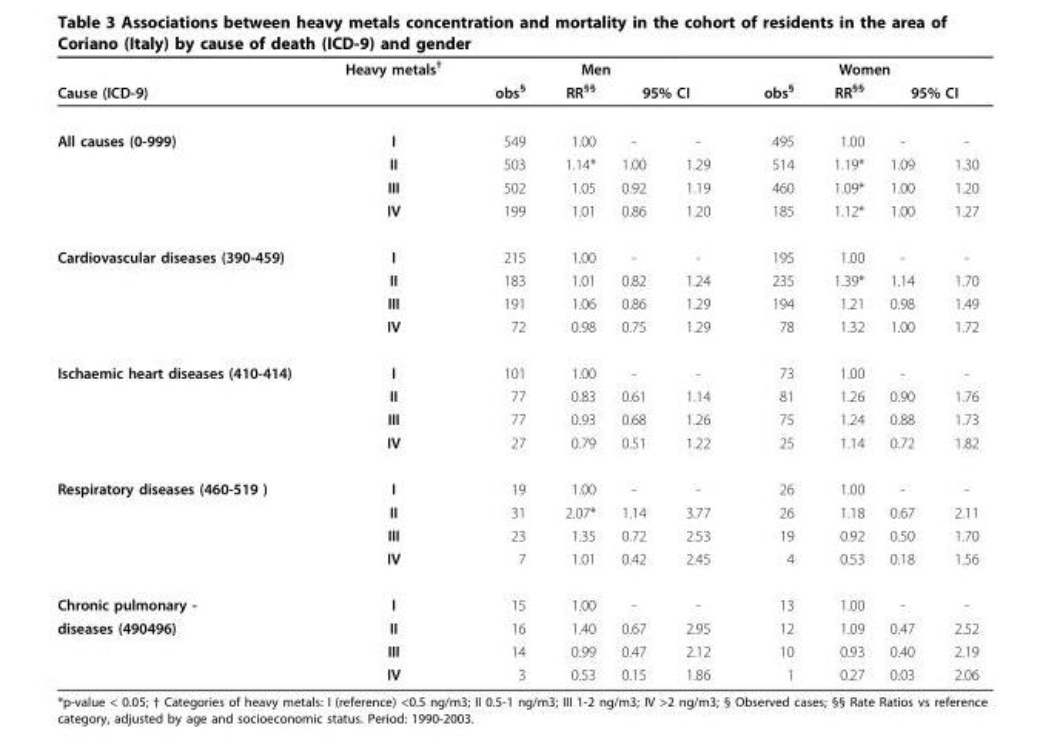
<table><thead><tr><td rowspan="3">Cause (ICD-9) All causes (0-999)</td><td rowspan="3">Heavy metals<sup>†</sup> I</td><td colspan="4">Men</td><td colspan="4">Women</td></tr><tr><td rowspan="2">obs<sup>§</sup> 549</td><td rowspan="2">RR<sup>§§</sup> 1.00</td><td colspan="2">95% CI</td><td rowspan="2">obs<sup>§</sup> 495</td><td rowspan="2">RR<sup>§§</sup> 1.00</td><td colspan="2">95% CI</td></tr><tr><td>-</td><td>-</td><td>-</td><td>-</td></tr></thead><tbody><tr><td></td><td>II</td><td>503</td><td>1.14*</td><td>1.00</td><td>1.29</td><td>514</td><td>1.19*</td><td>1.09</td><td>1.30</td></tr><tr><td></td><td>III</td><td>502</td><td>1.05</td><td>0.92</td><td>1.19</td><td>460</td><td>1.09*</td><td>1.00</td><td>1.20</td></tr><tr><td></td><td>IV</td><td>199</td><td>1.01</td><td>0.86</td><td>1.20</td><td>185</td><td>1.12*</td><td>1.00</td><td>1.27</td></tr><tr><td rowspan="4">Cardiovascular diseases (390-459)</td><td>I</td><td>215</td><td>1.00</td><td>-</td><td>-</td><td>195</td><td>1.00</td><td>-</td><td>-</td></tr><tr><td>II</td><td>183</td><td>1.01</td><td>0.82</td><td>1.24</td><td>235</td><td>1.39*</td><td>1.14</td><td>1.70</td></tr><tr><td>III</td><td>191</td><td>1.06</td><td>0.86</td><td>1.29</td><td>194</td><td>1.21</td><td>0.98</td><td>1.49</td></tr><tr><td>IV</td><td>72</td><td>0.98</td><td>0.75</td><td>1.29</td><td>78</td><td>1.32</td><td>1.00</td><td>1.72</td></tr><tr><td rowspan="4">Ischaemic heart diseases (410-414)</td><td>I</td><td>101</td><td>1.00</td><td>-</td><td>-</td><td>73</td><td>1.00</td><td>-</td><td>-</td></tr><tr><td>II</td><td>77</td><td>0.83</td><td>0.61</td><td>1.14</td><td>81</td><td>1.26</td><td>0.90</td><td>1.76</td></tr><tr><td>III</td><td>77</td><td>0.93</td><td>0.68</td><td>1.26</td><td>75</td><td>1.24</td><td>0.88</td><td>1.73</td></tr><tr><td>IV</td><td>27</td><td>0.79</td><td>0.51</td><td>1.22</td><td>25</td><td>1.14</td><td>0.72</td><td>1.82</td></tr><tr><td rowspan="4">Respiratory diseases (460-519 )</td><td>I</td><td>19</td><td>1.00</td><td>-</td><td>-</td><td>26</td><td>1.00</td><td>-</td><td>-</td></tr><tr><td>II</td><td>31</td><td>2.07*</td><td>1.14</td><td>3.77</td><td>26</td><td>1.18</td><td>0.67</td><td>2.11</td></tr><tr><td>III</td><td>23</td><td>1.35</td><td>0.72</td><td>2.53</td><td>19</td><td>0.92</td><td>0.50</td><td>1.70</td></tr><tr><td>IV</td><td>7</td><td>1.01</td><td>0.42</td><td>2.45</td><td>4</td><td>0.53</td><td>0.18</td><td>1.56</td></tr><tr><td>Chronic pulmonary -</td><td>I</td><td>15</td><td>1.00</td><td>-</td><td>-</td><td>13</td><td>1.00</td><td>-</td><td>-</td></tr><tr><td rowspan="3">diseases (490496)</td><td>II</td><td>16</td><td>1.40</td><td>0.67</td><td>2.95</td><td>12</td><td>1.09</td><td>0.47</td><td>2.52</td></tr><tr><td>III</td><td>14</td><td>0.99</td><td>0.47</td><td>2.12</td><td>10</td><td>0.93</td><td>0.40</td><td>2.19</td></tr><tr><td>IV</td><td>3</td><td>0.53</td><td>0.15</td><td>1.86</td><td>1</td><td>0.27</td><td>0.03</td><td>2.06</td></tr></tbody></table>